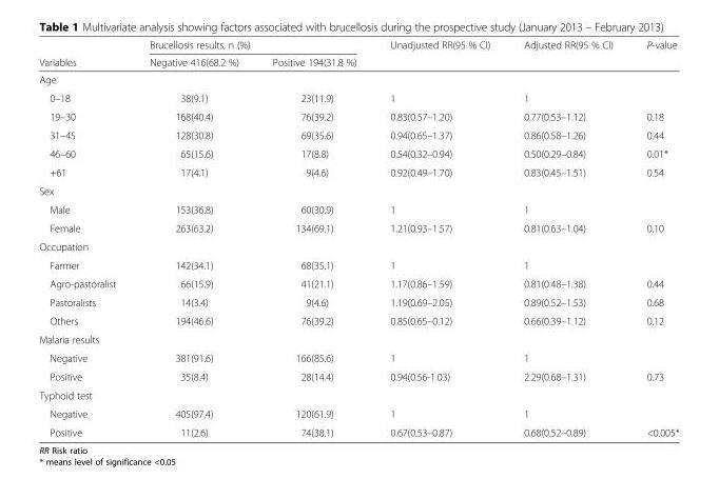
<table><thead><tr><td rowspan="2">Variables</td><td colspan="2">Brucellosis results, n (%)</td><td rowspan="2">Unadjusted RR(95 % CI)</td><td rowspan="2">Adjusted RR(95 % CI)</td><td rowspan="2">P-value</td></tr><tr><td>Negative 416(68.2 %)</td><td>Positive 194(31.8 %)</td></tr></thead><tbody><tr><td colspan="6">Age</td></tr><tr><td>0–18</td><td>38(9.1)</td><td>23(11.9)</td><td>1</td><td>1</td><td></td></tr><tr><td>19–30</td><td>168(40.4)</td><td>76(39.2)</td><td>0.83(0.57–1.20)</td><td>0.77(0.53–1.12)</td><td>0.18</td></tr><tr><td>31–45</td><td>128(30.8)</td><td>69(35.6)</td><td>0.94(0.65–1.37)</td><td>0.86(0.58–1.26)</td><td>0.44</td></tr><tr><td>46–60</td><td>65(15.6)</td><td>17(8.8)</td><td>0.54(0.32–0.94)</td><td>0.50(0.29–0.84)</td><td>0.01*</td></tr><tr><td>+61</td><td>17(4.1)</td><td>9(4.6)</td><td>0.92(0.49–1.70)</td><td>0.83(0.45–1.51)</td><td>0.54</td></tr><tr><td colspan="6">Sex</td></tr><tr><td>Male</td><td>153(36.8)</td><td>60(30.9)</td><td>1</td><td>1</td><td></td></tr><tr><td>Female</td><td>263(63.2)</td><td>134(69.1)</td><td>1.21(0.93–1.57)</td><td>0.81(0.63–1.04)</td><td>0.10</td></tr><tr><td colspan="6">Occupation</td></tr><tr><td>Farmer</td><td>142(34.1)</td><td>68(35.1)</td><td>1</td><td>1</td><td></td></tr><tr><td>Agro-pastoralist</td><td>66(15.9)</td><td>41(21.1)</td><td>1.17(0.86–1.59)</td><td>0.81(0.48–1.38)</td><td>0.44</td></tr><tr><td>Pastoralists</td><td>14(3.4)</td><td>9(4.6)</td><td>1.19(0.69–2.05)</td><td>0.89(0.52–1.53)</td><td>0.68</td></tr><tr><td>Others</td><td>194(46.6)</td><td>76(39.2)</td><td>0.85(0.65–0.12)</td><td>0.66(0.39–1.12)</td><td>0.12</td></tr><tr><td colspan="6">Malaria results</td></tr><tr><td>Negative</td><td>381(91.6)</td><td>166(85.6)</td><td>1</td><td>1</td><td></td></tr><tr><td>Positive</td><td>35(8.4)</td><td>28(14.4)</td><td>0.94(0.56-1.03)</td><td>2.29(0.68–1.31)</td><td>0.73</td></tr><tr><td colspan="6">Typhoid test</td></tr><tr><td>Negative</td><td>405(97.4)</td><td>120(61.9)</td><td>1</td><td>1</td><td></td></tr><tr><td>Positive</td><td>11(2.6)</td><td>74(38.1)</td><td>0.67(0.53–0.87)</td><td>0.68(0.52–0.89)</td><td>&lt;0.005*</td></tr></tbody></table>